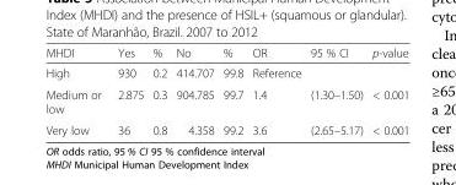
<table><thead><tr><td>MHDI</td><td>Yes</td><td>%</td><td>No</td><td>%</td><td>OR</td><td>95 % CI</td><td>p-value</td></tr></thead><tbody><tr><td>High</td><td>930</td><td>0.2</td><td>414.707</td><td>99.8</td><td>Reference</td><td></td><td></td></tr><tr><td>Medium or low</td><td>2.875</td><td>0.3</td><td>904.785</td><td>99.7</td><td>1.4</td><td>(1.30–1.50)</td><td>&lt; 0.001</td></tr><tr><td>Very low</td><td>36</td><td>0.8</td><td>4.358</td><td>99.2</td><td>3.6</td><td>(2.65–5.17)</td><td>&lt; 0.001</td></tr></tbody></table>